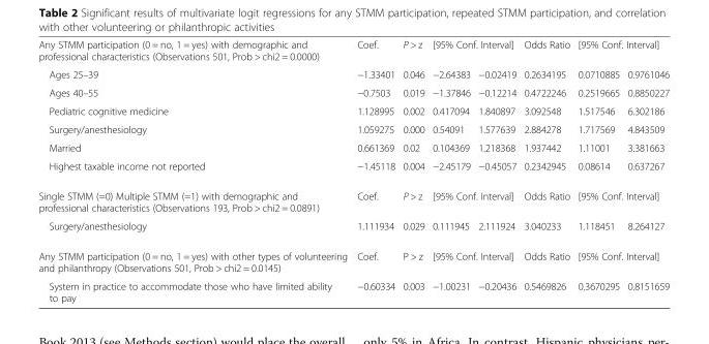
<table><tbody><tr><td>Any STMM participation (0 = no, 1 = yes) with demographic and professional characteristics (Observations 501, Prob &gt; chi2 = 0.0000)</td><td>Coef.</td><td>P &gt; z</td><td colspan="2">[95% Conf. Interval]</td><td>Odds Ratio</td><td colspan="2">[95% Conf. Interval]</td></tr><tr><td>Ages 25–39</td><td>−1.33401</td><td>0.046</td><td>−2.64383</td><td>−0.02419</td><td>0.2634195</td><td>0.0710885</td><td>0.9761046</td></tr><tr><td>Ages 40–55</td><td>−0.7503</td><td>0.019</td><td>−1.37846</td><td>−0.12214</td><td>0.4722246</td><td>0.2519665</td><td>0.8850227</td></tr><tr><td>Pediatric cognitive medicine</td><td>1.128995</td><td>0.002</td><td>0.417094</td><td>1.840897</td><td>3.092548</td><td>1.517546</td><td>6.302186</td></tr><tr><td>Surgery/anesthesiology</td><td>1.059275</td><td>0.000</td><td>0.54091</td><td>1.577639</td><td>2.884278</td><td>1.717569</td><td>4.843509</td></tr><tr><td>Married</td><td>0.661369</td><td>0.02</td><td>0.104369</td><td>1.218368</td><td>1.937442</td><td>1.11001</td><td>3.381663</td></tr><tr><td>Highest taxable income not reported</td><td>−1.45118</td><td>0.004</td><td>−2.45179</td><td>−0.45057</td><td>0.2342945</td><td>0.08614</td><td>0.637267</td></tr><tr><td>Single STMM (=0) Multiple STMM (=1) with demographic and professional characteristics (Observations 193, Prob &gt; chi2 = 0.0891)</td><td>Coef.</td><td>P &gt; z</td><td colspan="2">[95% Conf. Interval]</td><td>Odds Ratio</td><td colspan="2">[95% Conf. Interval]</td></tr><tr><td>Surgery/anesthesiology</td><td>1.111934</td><td>0.029</td><td>0.111945</td><td>2.111924</td><td>3.040233</td><td>1.118451</td><td>8.264127</td></tr><tr><td>Any STMM participation (0 = no, 1 = yes) with other types of volunteering and philanthropy (Observations 501, Prob &gt; chi2 = 0.0145)</td><td>Coef.</td><td>P &gt; z</td><td colspan="2">[95% Conf. Interval]</td><td>Odds Ratio</td><td colspan="2">[95% Conf. Interval]</td></tr><tr><td>System in practice to accommodate those who have limited ability to pay</td><td>−0.60334</td><td>0.003</td><td>−1.00231</td><td>−0.20436</td><td>0.5469826</td><td>0.3670295</td><td>0.8151659</td></tr></tbody></table>